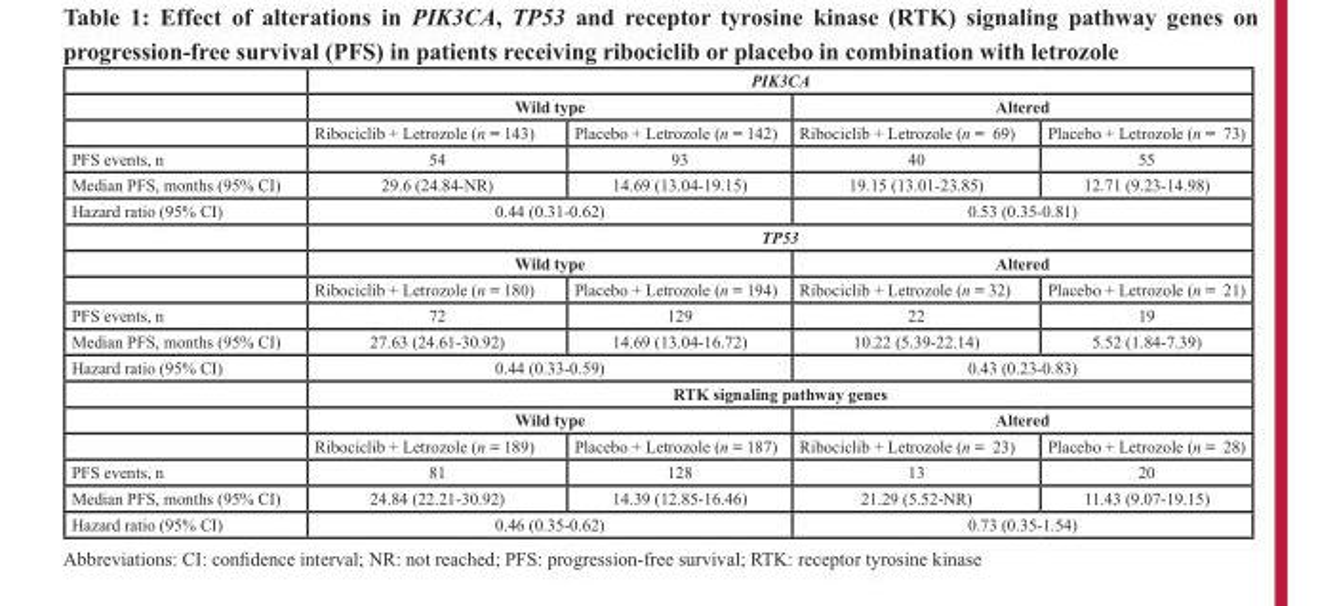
<table><thead><tr><td rowspan="3"></td><td colspan="4">PIK3CA</td></tr><tr><td colspan="2">Wild type</td><td colspan="2">Altered</td></tr><tr><td>Ribociclib + Letrozole (n = 143)</td><td>Placebo + Letrozole (n = 142)</td><td>Ribociclib + Letrozole (n = 69)</td><td>Placebo + Letrozole (n = 73)</td></tr></thead><tbody><tr><td>PFS events, n</td><td>54</td><td>93</td><td>40</td><td>55</td></tr><tr><td>Median PFS, months (95% CI)</td><td>29.6 (24.84-NR)</td><td>14.69 (13.04-19.15)</td><td>19.15 (13.01-23.85)</td><td>12.71 (9.23-14.98)</td></tr><tr><td rowspan="4">Hazard ratio (95% CI)</td><td colspan="2">0.44 (0.31-0.62)</td><td colspan="2">0.53 (0.35-0.81)</td></tr><tr><td colspan="4">TP53</td></tr><tr><td colspan="2">Wild type</td><td colspan="2">Altered</td></tr><tr><td>Ribociclib + Letrozole (n = 180)</td><td>Placebo + Letrozole (n = 194)</td><td>Ribociclib + Letrozole (n = 32)</td><td>Placebo + Letrozole (n = 21)</td></tr><tr><td>PFS events, n</td><td>72</td><td>129</td><td>22</td><td>19</td></tr><tr><td>Median PFS, months (95% CI)</td><td>27.63 (24.61-30.92)</td><td>14.69 (13.04-16.72)</td><td>10.22 (5.39-22.14)</td><td>5.52 (1.84-7.39)</td></tr><tr><td rowspan="4">Hazard ratio (95% CI)</td><td colspan="2">0.44 (0.33-0.59)</td><td colspan="2">0.43 (0.23-0.83)</td></tr><tr><td colspan="4">RTK signaling pathway genes</td></tr><tr><td colspan="2">Wild type</td><td colspan="2">Altered</td></tr><tr><td>Ribociclib + Letrozole (n = 189)</td><td>Placebo + Letrozole (n = 187)</td><td>Ribociclib + Letrozole (n = 23)</td><td>Placebo + Letrozole (n = 28)</td></tr><tr><td>PFS events, n</td><td>81</td><td>128</td><td>13</td><td>20</td></tr><tr><td>Median PFS, months (95% CI)</td><td>24.84 (22.21-30.92)</td><td>14.39 (12.85-16.46)</td><td>21.29 (5.52-NR)</td><td>11.43 (9.07-19.15)</td></tr><tr><td>Hazard ratio (95% CI)</td><td colspan="2">0.46 (0.35-0.62)</td><td colspan="2">0.73 (0.35-1.54)</td></tr></tbody></table>